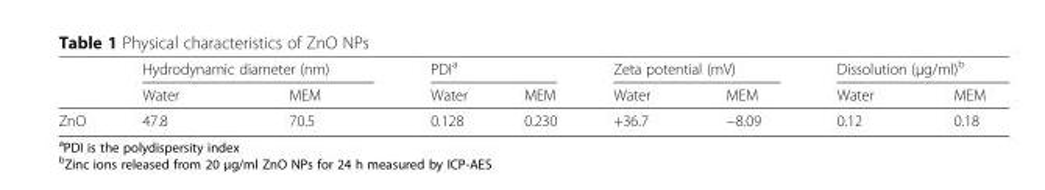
<table><thead><tr><td rowspan="2"></td><td colspan="2">Hydrodynamic diameter (nm)</td><td colspan="2">PDI<sup>a</sup></td><td colspan="2">Zeta potential (mV)</td><td colspan="2">Dissolution (μg/ml)<sup>b</sup></td></tr><tr><td>Water</td><td>MEM</td><td>Water</td><td>MEM</td><td>Water</td><td>MEM</td><td>Water</td><td>MEM</td></tr></thead><tbody><tr><td>ZnO</td><td>47.8</td><td>70.5</td><td>0.128</td><td>0.230</td><td>+36.7</td><td>−8.09</td><td>0.12</td><td>0.18</td></tr></tbody></table>